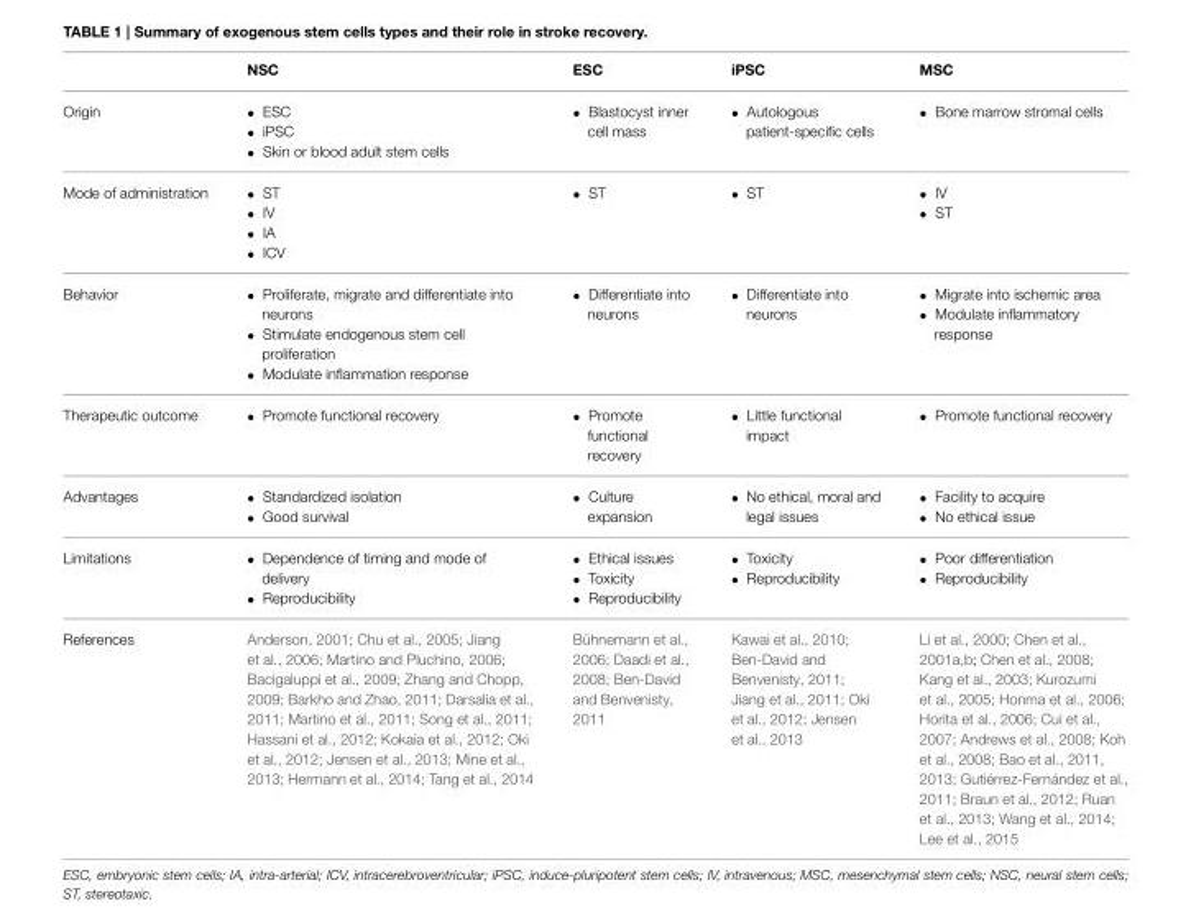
<table><thead><tr><td></td><td>NSC</td><td>ESC</td><td>iPSC</td><td>MSC</td></tr></thead><tbody><tr><td>Origin</td><td>• ESC • iPSC • Skin or blood adult stem cells</td><td>• Blastocyst inner cell mass</td><td>• Autologous patient-specific cells</td><td>• Bone marrow stromal cells</td></tr><tr><td>Mode of administration</td><td>• ST • IV • IA • ICV</td><td>• ST</td><td>• ST</td><td>• IV • ST</td></tr><tr><td>Behavior</td><td>• Proliferate, migrate and differentiate into neurons • Stimulate endogenous stem cell proliferation • Modulate inflammation response</td><td>• Differentiate into neurons</td><td>• Differentiate into neurons</td><td>• Migrate into ischemic area • Modulate inflammatory response</td></tr><tr><td>Therapeutic outcome</td><td>• Promote functional recovery</td><td>• Promote functional recovery</td><td>• Little functional impact</td><td>• Promote functional recovery</td></tr><tr><td>Advantages</td><td>• Standardized isolation • Good survival</td><td>• Culture expansion</td><td>• No ethical, moral and legal issues</td><td>• Facility to acquire • No ethical issue</td></tr><tr><td>Limitations</td><td>• Dependence of timing and mode of delivery • Reproducibility</td><td>• Ethical issues • Toxicity • Reproducibility</td><td>• Toxicity • Reproducibility</td><td>• Poor differentiation • Reproducibility</td></tr><tr><td>References</td><td>Anderson, 2001; Chu et al., 2005; Jiang et al., 2006; Martino and Pluchino, 2006; Bacigaluppi et al., 2009; Zhang and Chopp, 2009; Barkho and Zhao, 2011; Darsalia et al., 2011; Martino et al., 2011; Song et al., 2011; Hassani et al., 2012; Kokaia et al., 2012; Oki et al., 2012; Jensen et al., 2013; Mine et al., 2013; Hermann et al., 2014; Tang et al., 2014</td><td>Bühnemann et al., 2006; Daadi et al., 2008; Ben-David and Benvenisty, 2011</td><td>Kawai et al., 2010; Ben-David and Benvenisty, 2011; Jiang et al., 2011; Oki et al., 2012; Jensen et al., 2013</td><td>Li et al., 2000; Chen et al., 2001a,b; Chen et al., 2008; Kang et al., 2003; Kurozumi et al., 2005; Honma et al., 2006; Horita et al., 2006; Cui et al., 2007; Andrews et al., 2008; Koh et al., 2008; Bao et al., 2011, 2013; Gutiérrez-Fernández et al., 2011; Braun et al., 2012; Ruan et al., 2013; Wang et al., 2014; Lee et al., 2015</td></tr></tbody></table>